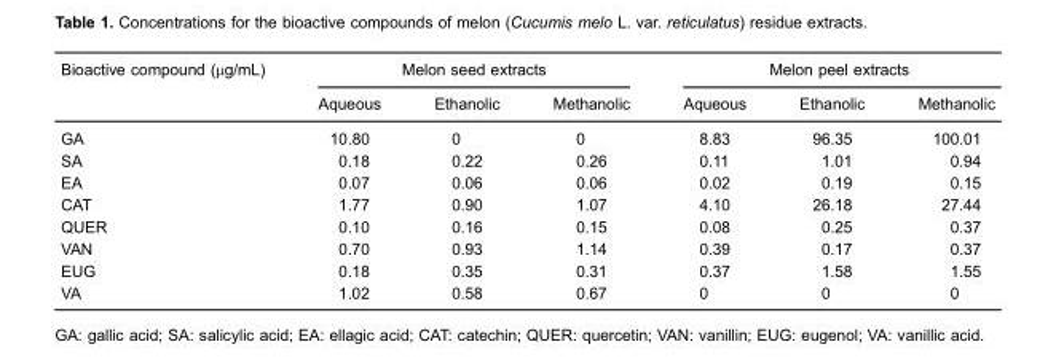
<table><thead><tr><td rowspan="2">Bioactive compound (μg/mL)</td><td colspan="3">Melon seed extracts</td><td colspan="3">Melon peel extracts</td></tr><tr><td>Aqueous</td><td>Ethanolic</td><td>Methanolic</td><td>Aqueous</td><td>Ethanolic</td><td>Methanolic</td></tr></thead><tbody><tr><td>GA</td><td>10.80</td><td>0</td><td>0</td><td>8.83</td><td>96.35</td><td>100.01</td></tr><tr><td>SA</td><td>0.18</td><td>0.22</td><td>0.26</td><td>0.11</td><td>1.01</td><td>0.94</td></tr><tr><td>EA</td><td>0.07</td><td>0.06</td><td>0.06</td><td>0.02</td><td>0.19</td><td>0.15</td></tr><tr><td>CAT</td><td>1.77</td><td>0.90</td><td>1.07</td><td>4.10</td><td>26.18</td><td>27.44</td></tr><tr><td>QUER</td><td>0.10</td><td>0.16</td><td>0.15</td><td>0.08</td><td>0.25</td><td>0.37</td></tr><tr><td>VAN</td><td>0.70</td><td>0.93</td><td>1.14</td><td>0.39</td><td>0.17</td><td>0.37</td></tr><tr><td>EUG</td><td>0.18</td><td>0.35</td><td>0.31</td><td>0.37</td><td>1.58</td><td>1.55</td></tr><tr><td>VA</td><td>1.02</td><td>0.58</td><td>0.67</td><td>0</td><td>0</td><td>0</td></tr></tbody></table>